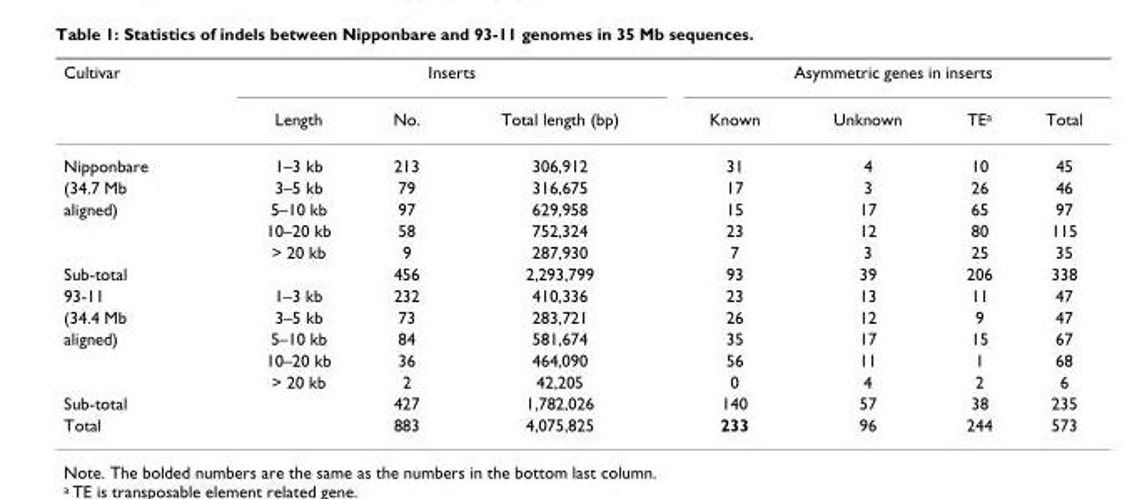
<table><thead><tr><td rowspan="2">Cultivar</td><td colspan="3">Inserts</td><td colspan="4">Asymmetric genes in inserts</td></tr><tr><td>Length</td><td>No.</td><td>Total length (bp)</td><td>Known</td><td>Unknown</td><td>TE<sup>a</sup></td><td>Total</td></tr></thead><tbody><tr><td>Nipponbare</td><td>1–3 kb</td><td>213</td><td>306,912</td><td>31</td><td>4</td><td>10</td><td>45</td></tr><tr><td>(34.7 Mb</td><td>3–5 kb</td><td>79</td><td>316,675</td><td>17</td><td>3</td><td>26</td><td>46</td></tr><tr><td rowspan="3">aligned)</td><td>5–10 kb</td><td>97</td><td>629,958</td><td>15</td><td>17</td><td>65</td><td>97</td></tr><tr><td>10–20 kb</td><td>58</td><td>752,324</td><td>23</td><td>12</td><td>80</td><td>115</td></tr><tr><td>&gt; 20 kb</td><td>9</td><td>287,930</td><td>7</td><td>3</td><td>25</td><td>35</td></tr><tr><td>Sub-total</td><td></td><td>456</td><td>2,293,799</td><td>93</td><td>39</td><td>206</td><td>338</td></tr><tr><td>93-11</td><td>1–3 kb</td><td>232</td><td>410,336</td><td>23</td><td>13</td><td>11</td><td>47</td></tr><tr><td>(34.4 Mb</td><td>3–5 kb</td><td>73</td><td>283,721</td><td>26</td><td>12</td><td>9</td><td>47</td></tr><tr><td rowspan="3">aligned)</td><td>5–10 kb</td><td>84</td><td>581,674</td><td>35</td><td>17</td><td>15</td><td>67</td></tr><tr><td>10–20 kb</td><td>36</td><td>464,090</td><td>56</td><td>11</td><td>1</td><td>68</td></tr><tr><td>&gt; 20 kb</td><td>2</td><td>42,205</td><td>0</td><td>4</td><td>2</td><td>6</td></tr><tr><td>Sub-total</td><td></td><td>427</td><td>1,782,026</td><td>140</td><td>57</td><td>38</td><td>235</td></tr><tr><td>Total</td><td></td><td>883</td><td>4,075,825</td><td>233</td><td>96</td><td>244</td><td>573</td></tr></tbody></table>